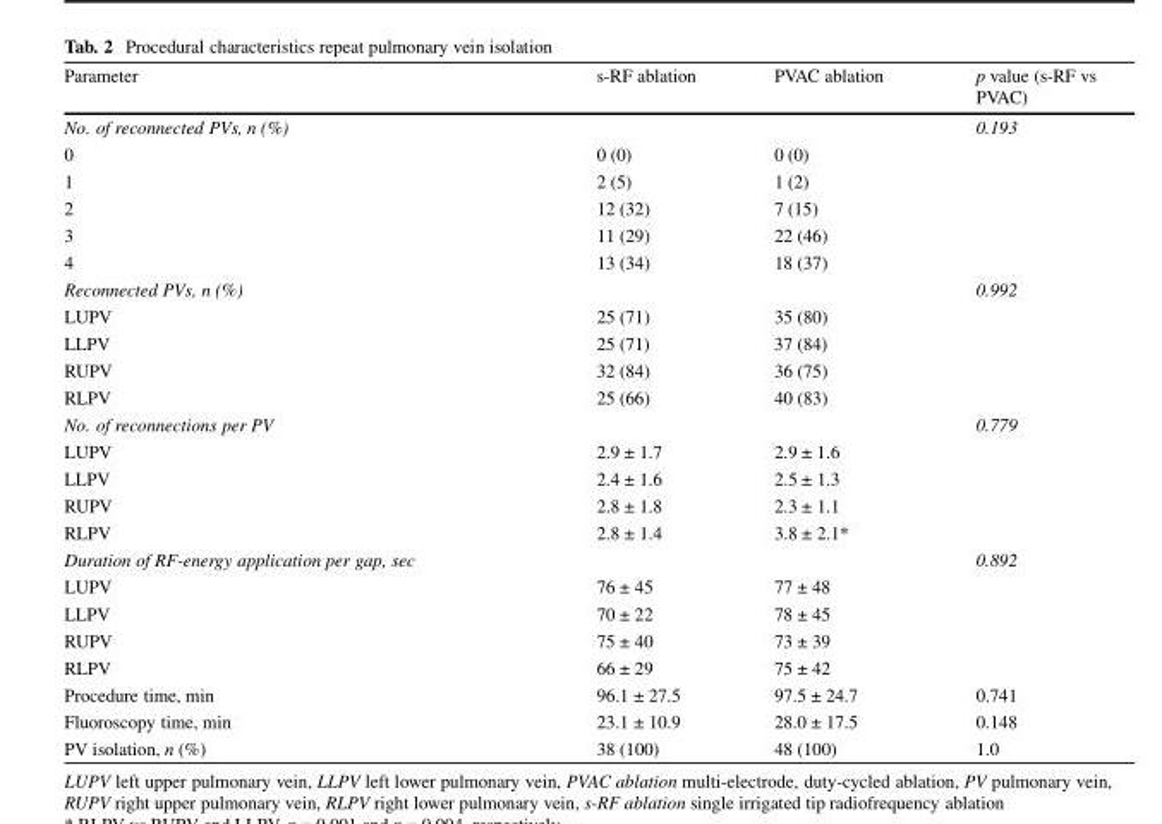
<table><thead><tr><td>Parameter</td><td>s-RF ablation</td><td>PVAC ablation</td><td>p value (s-RF vs PVAC)</td></tr></thead><tbody><tr><td>No. of reconnected PVs, n (%)</td><td></td><td></td><td>0.193</td></tr><tr><td>0</td><td>0 (0)</td><td>0 (0)</td><td></td></tr><tr><td>1</td><td>2 (5)</td><td>1 (2)</td><td></td></tr><tr><td>2</td><td>12 (32)</td><td>7 (15)</td><td></td></tr><tr><td>3</td><td>11 (29)</td><td>22 (46)</td><td></td></tr><tr><td>4</td><td>13 (34)</td><td>18 (37)</td><td></td></tr><tr><td>Reconnected PVs, n (%)</td><td></td><td></td><td>0.992</td></tr><tr><td>LUPV</td><td>25 (71)</td><td>35 (80)</td><td></td></tr><tr><td>LLPV</td><td>25 (71)</td><td>37 (84)</td><td></td></tr><tr><td>RUPV</td><td>32 (84)</td><td>36 (75)</td><td></td></tr><tr><td>RLPV</td><td>25 (66)</td><td>40 (83)</td><td></td></tr><tr><td>No. of reconnections per PV</td><td></td><td></td><td>0.779</td></tr><tr><td>LUPV</td><td>2.9 ± 1.7</td><td>2.9 ± 1.6</td><td></td></tr><tr><td>LLPV</td><td>2.4 ± 1.6</td><td>2.5 ± 1.3</td><td></td></tr><tr><td>RUPV</td><td>2.8 ± 1.8</td><td>2.3 ± 1.1</td><td></td></tr><tr><td>RLPV</td><td>2.8 ± 1.4</td><td>3.8 ± 2.1*</td><td></td></tr><tr><td>Duration of RF-energy application per gap, sec</td><td></td><td></td><td>0.892</td></tr><tr><td>LUPV</td><td>76 ± 45</td><td>77 ± 48</td><td></td></tr><tr><td>LLPV</td><td>70 ± 22</td><td>78 ± 45</td><td></td></tr><tr><td>RUPV</td><td>75 ± 40</td><td>73 ± 39</td><td></td></tr><tr><td>RLPV</td><td>66 ± 29</td><td>75 ± 42</td><td></td></tr><tr><td>Procedure time, min</td><td>96.1 ± 27.5</td><td>97.5 ± 24.7</td><td>0.741</td></tr><tr><td>Fluoroscopy time, min</td><td>23.1 ± 10.9</td><td>28.0 ± 17.5</td><td>0.148</td></tr><tr><td>PV isolation, n (%)</td><td>38 (100)</td><td>48 (100)</td><td>1.0</td></tr></tbody></table>